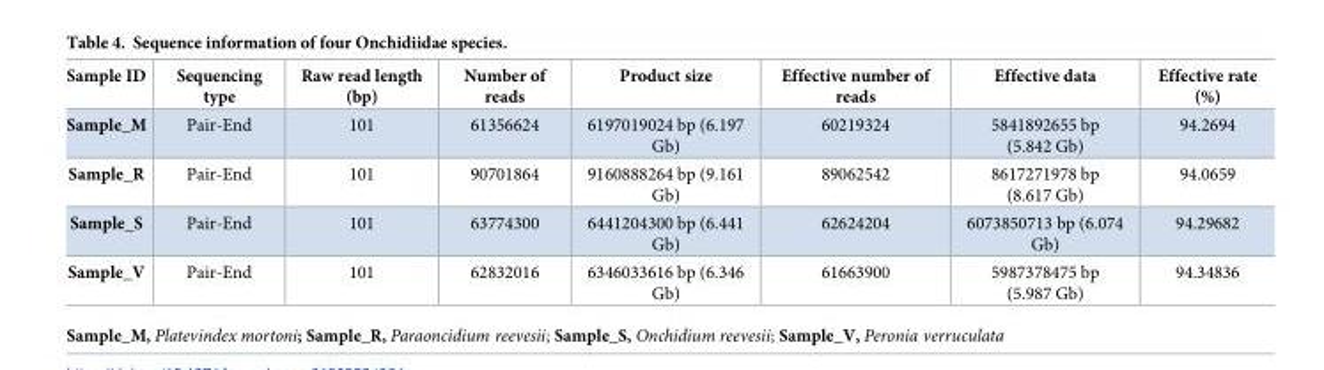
<table><thead><tr><td>Sample ID</td><td>Sequencing type</td><td>Raw read length (bp)</td><td>Number of reads</td><td>Product size</td><td>Effective number of reads</td><td>Effective data</td><td>Effective rate (%)</td></tr></thead><tbody><tr><td>Sample_M</td><td>Pair-End</td><td>101</td><td>61356624</td><td>6197019024 bp (6.197 Gb)</td><td>60219324</td><td>5841892655 bp (5.842 Gb)</td><td>94.2694</td></tr><tr><td>Sample_R</td><td>Pair-End</td><td>101</td><td>90701864</td><td>9160888264 bp (9.161 Gb)</td><td>89062542</td><td>8617271978 bp (8.617 Gb)</td><td>94.0659</td></tr><tr><td>Sample_S</td><td>Pair-End</td><td>101</td><td>63774300</td><td>6441204300 bp (6.441 Gb)</td><td>62624204</td><td>6073850713 bp (6.074 Gb)</td><td>94.29682</td></tr><tr><td>Sample_V</td><td>Pair-End</td><td>101</td><td>62832016</td><td>6346033616 bp (6.346 Gb)</td><td>61663900</td><td>5987378475 bp (5.987 Gb)</td><td>94.34836</td></tr></tbody></table>